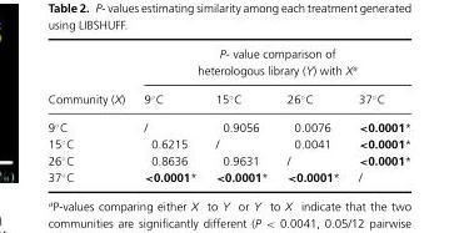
<table><thead><tr><td rowspan="2">Community (X)</td><td colspan="4">P- value comparison of heterologous library (Y) with X<sup>a</sup></td></tr><tr><td>9◦C</td><td>15◦C</td><td>26◦C</td><td>37◦C</td></tr></thead><tbody><tr><td>9◦C</td><td>/</td><td>0.9056</td><td>0.0076</td><td>&lt;0.0001*</td></tr><tr><td>15◦C</td><td>0.6215</td><td>/</td><td>0.0041</td><td>&lt;0.0001*</td></tr><tr><td>26◦C</td><td>0.8636</td><td>0.9631</td><td>/</td><td>&lt;0.0001*</td></tr><tr><td>37◦C</td><td>&lt;0.0001*</td><td>&lt;0.0001*</td><td>&lt;0.0001*</td><td>/</td></tr></tbody></table>